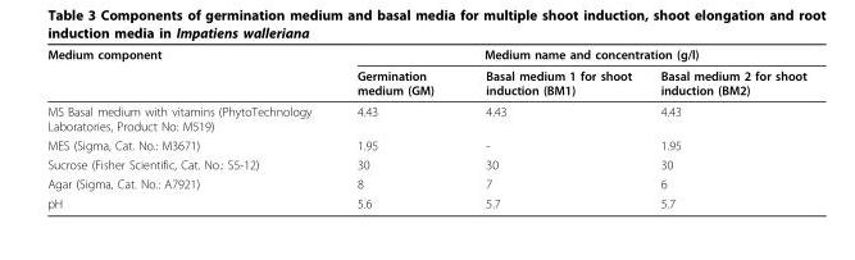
<table><thead><tr><td rowspan="2">Medium component</td><td colspan="3">Medium name and concentration (g/l)</td></tr><tr><td>Germination medium (GM)</td><td>Basal medium 1 for shoot induction (BM1)</td><td>Basal medium 2 for shoot induction (BM2)</td></tr></thead><tbody><tr><td>MS Basal medium with vitamins (PhytoTechnology Laboratories, Product No: M519)</td><td>4.43</td><td>4.43</td><td>4.43</td></tr><tr><td>MES (Sigma, Cat. No.: M3671)</td><td>1.95</td><td>-</td><td>1.95</td></tr><tr><td>Sucrose (Fisher Scientific, Cat. No.: S5-12)</td><td>30</td><td>30</td><td>30</td></tr><tr><td>Agar (Sigma, Cat. No.: A7921)</td><td>8</td><td>7</td><td>6</td></tr><tr><td>pH</td><td>5.6</td><td>5.7</td><td>5.7</td></tr></tbody></table>